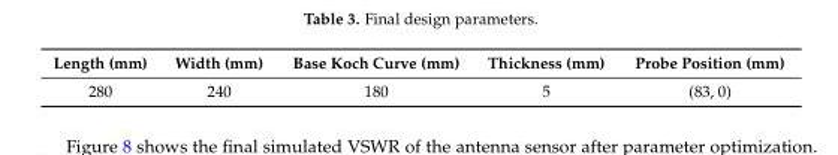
<table><thead><tr><td>Length (mm)</td><td>Width (mm)</td><td>Base Koch Curve (mm)</td><td>Thickness (mm)</td><td>Probe Position (mm)</td></tr></thead><tbody><tr><td>280</td><td>240</td><td>180</td><td>5</td><td>(83, 0)</td></tr></tbody></table>